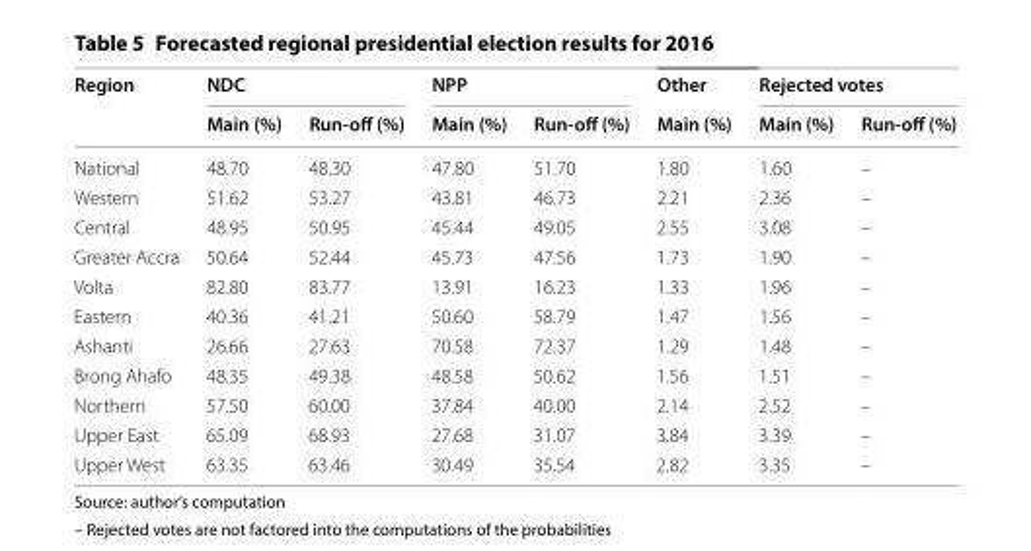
<table><thead><tr><td rowspan="2">Region</td><td colspan="2">NDC</td><td colspan="2">NPP</td><td rowspan="2">Other Main (%)</td><td colspan="2">Rejected votes</td></tr><tr><td>Main (%)</td><td>Run-off (%)</td><td>Main (%)</td><td>Run-off (%)</td><td>Main (%)</td><td>Run-off (%)</td></tr></thead><tbody><tr><td>National</td><td>48.70</td><td>48.30</td><td>47.80</td><td>51.70</td><td>1.80</td><td>1.60</td><td>–</td></tr><tr><td>Western</td><td>51.62</td><td>53.27</td><td>43.81</td><td>46.73</td><td>2.21</td><td>2.36</td><td>–</td></tr><tr><td>Central</td><td>48.95</td><td>50.95</td><td>45.44</td><td>49.05</td><td>2.55</td><td>3.08</td><td>–</td></tr><tr><td>Greater Accra</td><td>50.64</td><td>52.44</td><td>45.73</td><td>47.56</td><td>1.73</td><td>1.90</td><td>–</td></tr><tr><td>Volta</td><td>82.80</td><td>83.77</td><td>13.91</td><td>16.23</td><td>1.33</td><td>1.96</td><td>–</td></tr><tr><td>Eastern</td><td>40.36</td><td>41.21</td><td>50.60</td><td>58.79</td><td>1.47</td><td>1.56</td><td>–</td></tr><tr><td>Ashanti</td><td>26.66</td><td>27.63</td><td>70.58</td><td>72.37</td><td>1.29</td><td>1.48</td><td>–</td></tr><tr><td>Brong Ahafo</td><td>48.35</td><td>49.38</td><td>48.58</td><td>50.62</td><td>1.56</td><td>1.51</td><td>–</td></tr><tr><td>Northern</td><td>57.50</td><td>60.00</td><td>37.84</td><td>40.00</td><td>2.14</td><td>2.52</td><td>–</td></tr><tr><td>Upper East</td><td>65.09</td><td>68.93</td><td>27.68</td><td>31.07</td><td>3.84</td><td>3.39</td><td>–</td></tr><tr><td>Upper West</td><td>63.35</td><td>63.46</td><td>30.49</td><td>35.54</td><td>2.82</td><td>3.35</td><td>–</td></tr></tbody></table>